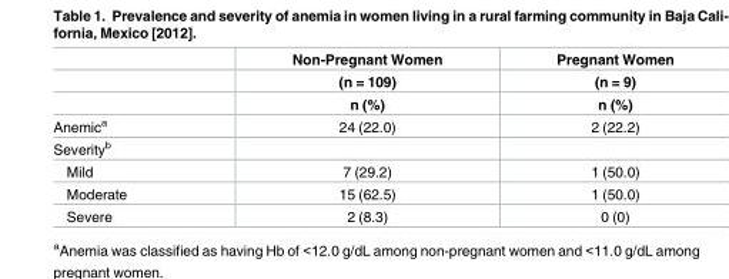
<table><thead><tr><td rowspan="3"></td><td rowspan="3">Non-Pregnant Women (n = 109) n (%)</td><td rowspan="3">Pregnant Women (n = 9) n (%)</td></tr><tr></tr><tr></tr></thead><tbody><tr><td>Anemic<sup>a</sup></td><td>24 (22.0)</td><td>2 (22.2)</td></tr><tr><td colspan="3">Severity<sup>b</sup></td></tr><tr><td>Mild</td><td>7 (29.2)</td><td>1 (50.0)</td></tr><tr><td>Moderate</td><td>15 (62.5)</td><td>1 (50.0)</td></tr><tr><td>Severe</td><td>2 (8.3)</td><td>0 (0)</td></tr></tbody></table>